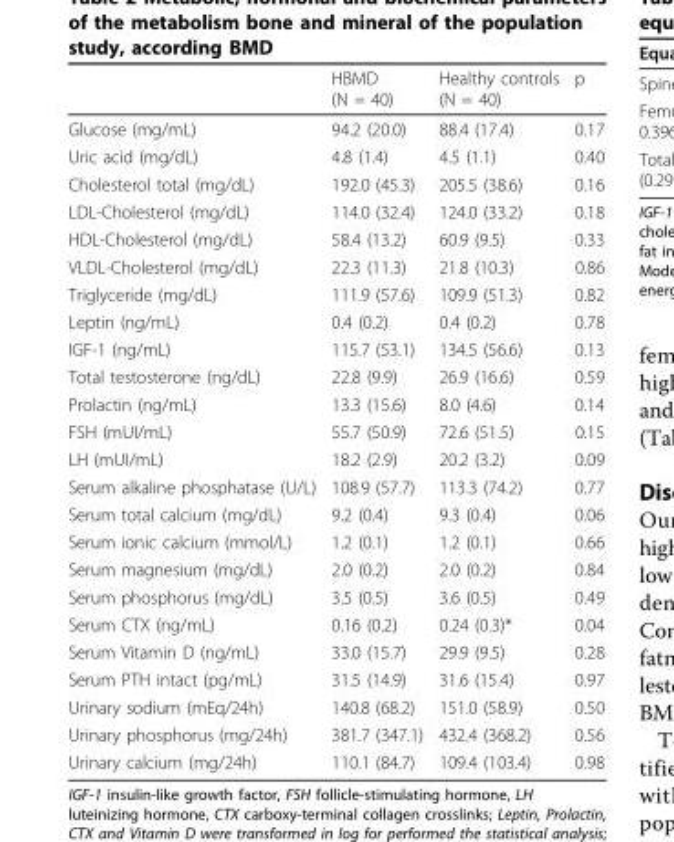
<table><thead><tr><td></td><td>HBMD (N = 40)</td><td>Healthy controls (N = 40)</td><td>p</td></tr></thead><tbody><tr><td>Glucose (mg/mL)</td><td>94.2 (20.0)</td><td>88.4 (17.4)</td><td>0.17</td></tr><tr><td>Uric acid (mg/dL)</td><td>4.8 (1.4)</td><td>4.5 (1.1)</td><td>0.40</td></tr><tr><td>Cholesterol total (mg/dL)</td><td>192.0 (45.3)</td><td>205.5 (38.6)</td><td>0.16</td></tr><tr><td>LDL-Cholesterol (mg/dL)</td><td>114.0 (32.4)</td><td>124.0 (33.2)</td><td>0.18</td></tr><tr><td>HDL-Cholesterol (mg/dL)</td><td>58.4 (13.2)</td><td>60.9 (9.5)</td><td>0.33</td></tr><tr><td>VLDL-Cholesterol (mg/dL)</td><td>22.3 (11.3)</td><td>21.8 (10.3)</td><td>0.86</td></tr><tr><td>Triglyceride (mg/dL)</td><td>111.9 (57.6)</td><td>109.9 (51.3)</td><td>0.82</td></tr><tr><td>Leptin (ng/mL)</td><td>0.4 (0.2)</td><td>0.4 (0.2)</td><td>0.78</td></tr><tr><td>IGF-1 (ng/mL)</td><td>115.7 (53.1)</td><td>134.5 (56.6)</td><td>0.13</td></tr><tr><td>Total testosterone (ng/dL)</td><td>22.8 (9.9)</td><td>26.9 (16.6)</td><td>0.59</td></tr><tr><td>Prolactin (ng/mL)</td><td>13.3 (15.6)</td><td>8.0 (4.6)</td><td>0.14</td></tr><tr><td>FSH (mUI/mL)</td><td>55.7 (50.9)</td><td>72.6 (51.5)</td><td>0.15</td></tr><tr><td>LH (mUI/mL)</td><td>18.2 (2.9)</td><td>20.2 (3.2)</td><td>0.09</td></tr><tr><td>Serum alkaline phosphatase (U/L)</td><td>108.9 (57.7)</td><td>113.3 (74.2)</td><td>0.77</td></tr><tr><td>Serum total calcium (mg/dL)</td><td>9.2 (0.4)</td><td>9.3 (0.4)</td><td>0.06</td></tr><tr><td>Serum ionic calcium (mmol/L)</td><td>1.2 (0.1)</td><td>1.2 (0.1)</td><td>0.66</td></tr><tr><td>Serum magnesium (mg/dL)</td><td>2.0 (0.2)</td><td>2.0 (0.2)</td><td>0.84</td></tr><tr><td>Serum phosphorus (mg/dL)</td><td>3.5 (0.5)</td><td>3.6 (0.5)</td><td>0.49</td></tr><tr><td>Serum CTX (ng/mL)</td><td>0.16 (0.2)</td><td>0.24 (0.3)*</td><td>0.04</td></tr><tr><td>Serum Vitamin D (ng/mL)</td><td>33.0 (15.7)</td><td>29.9 (9.5)</td><td>0.28</td></tr><tr><td>Serum PTH intact (pg/mL)</td><td>31.5 (14.9)</td><td>31.6 (15.4)</td><td>0.97</td></tr><tr><td>Urinary sodium (mEq/24h)</td><td>140.8 (68.2)</td><td>151.0 (58.9)</td><td>0.50</td></tr><tr><td>Urinary phosphorus (mg/24h)</td><td>381.7 (347.1)</td><td>432.4 (368.2)</td><td>0.56</td></tr><tr><td>Urinary calcium (mg/24h)</td><td>110.1 (84.7)</td><td>109.4 (103.4)</td><td>0.98</td></tr></tbody></table>